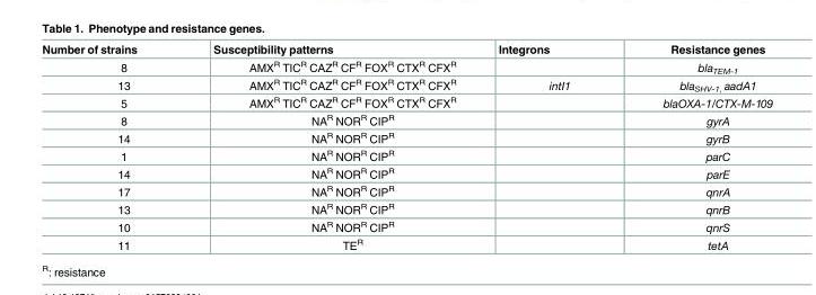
<table><thead><tr><td>Number of strains</td><td>Susceptibility patterns</td><td>Integrons</td><td>Resistance genes</td></tr></thead><tbody><tr><td>8</td><td>AMX<sup>R</sup> TIC<sup>R</sup> CAZ<sup>R</sup> CF<sup>R</sup> FOX<sup>R</sup> CTX<sup>R</sup> CFX<sup>R</sup></td><td></td><td>bla<sub>TEM-1</sub></td></tr><tr><td>13</td><td>AMX<sup>R</sup> TIC<sup>R</sup> CAZ<sup>R</sup> CF<sup>R</sup> FOX<sup>R</sup> CTX<sup>R</sup> CFX<sup>R</sup></td><td>intI1</td><td>bla<sub>SHV-1,</sub> aadA1</td></tr><tr><td>5</td><td>AMX<sup>R</sup> TIC<sup>R</sup> CAZ<sup>R</sup> CF<sup>R</sup> FOX<sup>R</sup> CTX<sup>R</sup> CFX<sup>R</sup></td><td></td><td>blaOXA-1/CTX-M-109</td></tr><tr><td>8</td><td>NA<sup>R</sup> NOR<sup>R</sup> CIP<sup>R</sup></td><td></td><td>gyrA</td></tr><tr><td>14</td><td>NA<sup>R</sup> NOR<sup>R</sup> CIP<sup>R</sup></td><td></td><td>gyrB</td></tr><tr><td>1</td><td>NA<sup>R</sup> NOR<sup>R</sup> CIP<sup>R</sup></td><td></td><td>parC</td></tr><tr><td>14</td><td>NA<sup>R</sup> NOR<sup>R</sup> CIP<sup>R</sup></td><td></td><td>parE</td></tr><tr><td>17</td><td>NA<sup>R</sup> NOR<sup>R</sup> CIP<sup>R</sup></td><td></td><td>qnrA</td></tr><tr><td>13</td><td>NA<sup>R</sup> NOR<sup>R</sup> CIP<sup>R</sup></td><td></td><td>qnrB</td></tr><tr><td>10</td><td>NA<sup>R</sup> NOR<sup>R</sup> CIP<sup>R</sup></td><td></td><td>qnrS</td></tr><tr><td>11</td><td>TE<sup>R</sup></td><td></td><td>tetA</td></tr></tbody></table>